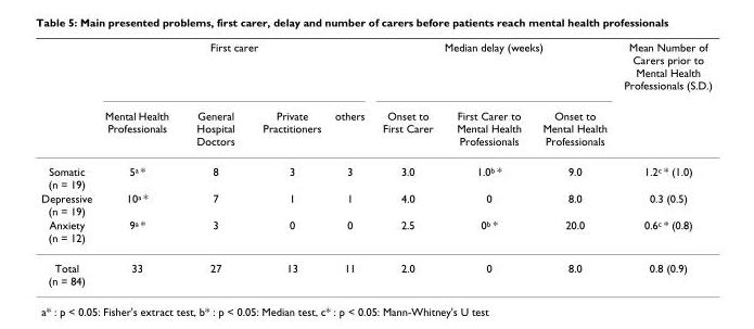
<table><thead><tr><td rowspan="2"></td><td colspan="4">First carer</td><td colspan="3">Median delay (weeks)</td><td rowspan="2">Mean Number of Carers prior to Mental Health Professionals (S.D.)</td></tr><tr><td>Mental Health Professionals</td><td>General Hospital Doctors</td><td>Private Practitioners</td><td>others</td><td>Onset to First Carer</td><td>First Carer to Mental Health Professionals</td><td>Onset to Mental Health Professionals</td></tr></thead><tbody><tr><td>Somatic (n = 19)</td><td>5<sup>a</sup> *</td><td>8</td><td>3</td><td>3</td><td>3.0</td><td>1.0<sup>b</sup> *</td><td>9.0</td><td>1.2<sup>c</sup> * (1.0)</td></tr><tr><td>Depressive (n = 19)</td><td>10<sup>a</sup> *</td><td>7</td><td>1</td><td>1</td><td>4.0</td><td>0</td><td>8.0</td><td>0.3 (0.5)</td></tr><tr><td>Anxiety (n = 12)</td><td>9<sup>a</sup> *</td><td>3</td><td>0</td><td>0</td><td>2.5</td><td>0<sup>b</sup> *</td><td>20.0</td><td>0.6<sup>c</sup> * (0.8)</td></tr><tr><td>Total (n = 84)</td><td>33</td><td>27</td><td>13</td><td>11</td><td>2.0</td><td>0</td><td>8.0</td><td>0.8 (0.9)</td></tr></tbody></table>